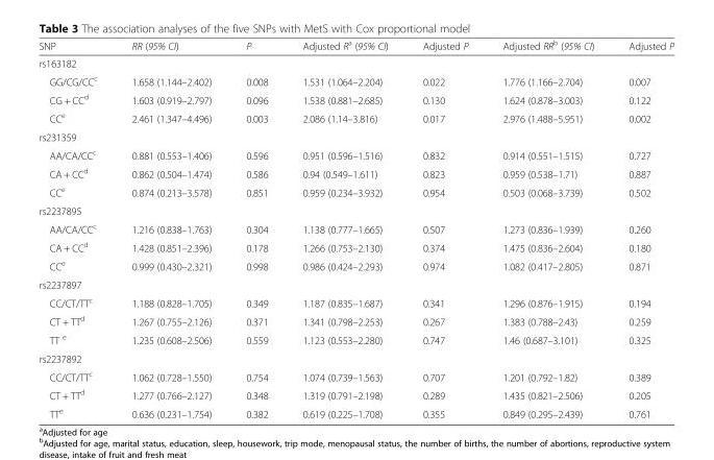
<table><thead><tr><td>SNP</td><td>RR (95% CI)</td><td>P</td><td>Adjusted R<sup>a</sup> (95% CI)</td><td>Adjusted P</td><td>Adjusted RR<sup>b</sup> (95% CI)</td><td>Adjusted P</td></tr></thead><tbody><tr><td colspan="7">rs163182</td></tr><tr><td>GG/CG/CC<sup>c</sup></td><td>1.658 (1.144–2.402)</td><td>0.008</td><td>1.531 (1.064–2.204)</td><td>0.022</td><td>1.776 (1.166–2.704)</td><td>0.007</td></tr><tr><td>CG + CC<sup>d</sup></td><td>1.603 (0.919–2.797)</td><td>0.096</td><td>1.538 (0.881–2.685)</td><td>0.130</td><td>1.624 (0.878–3.003)</td><td>0.122</td></tr><tr><td>CC<sup>e</sup></td><td>2.461 (1.347–4.496)</td><td>0.003</td><td>2.086 (1.14–3.816)</td><td>0.017</td><td>2.976 (1.488–5.951)</td><td>0.002</td></tr><tr><td colspan="7">rs231359</td></tr><tr><td>AA/CA/CC<sup>c</sup></td><td>0.881 (0.553–1.406)</td><td>0.596</td><td>0.951 (0.596–1.516)</td><td>0.832</td><td>0.914 (0.551–1.515)</td><td>0.727</td></tr><tr><td>CA + CC<sup>d</sup></td><td>0.862 (0.504–1.474)</td><td>0.586</td><td>0.94 (0.549–1.611)</td><td>0.823</td><td>0.959 (0.538–1.71)</td><td>0.887</td></tr><tr><td>CC<sup>e</sup></td><td>0.874 (0.213–3.578)</td><td>0.851</td><td>0.959 (0.234–3.932)</td><td>0.954</td><td>0.503 (0.068–3.739)</td><td>0.502</td></tr><tr><td colspan="7">rs2237895</td></tr><tr><td>AA/CA/CC<sup>c</sup></td><td>1.216 (0.838–1.763)</td><td>0.304</td><td>1.138 (0.777–1.665)</td><td>0.507</td><td>1.273 (0.836–1.939)</td><td>0.260</td></tr><tr><td>CA + CC<sup>d</sup></td><td>1.428 (0.851–2.396)</td><td>0.178</td><td>1.266 (0.753–2.130)</td><td>0.374</td><td>1.475 (0.836–2.604)</td><td>0.180</td></tr><tr><td>CC<sup>e</sup></td><td>0.999 (0.430–2.321)</td><td>0.998</td><td>0.986 (0.424–2.293)</td><td>0.974</td><td>1.082 (0.417–2.805)</td><td>0.871</td></tr><tr><td colspan="7">rs2237897</td></tr><tr><td>CC/CT/TT<sup>c</sup></td><td>1.188 (0.828–1.705)</td><td>0.349</td><td>1.187 (0.835–1.687)</td><td>0.341</td><td>1.296 (0.876–1.915)</td><td>0.194</td></tr><tr><td>CT + TT<sup>d</sup></td><td>1.267 (0.755–2.126)</td><td>0.371</td><td>1.341 (0.798–2.253)</td><td>0.267</td><td>1.383 (0.788–2.43)</td><td>0.259</td></tr><tr><td>TT <sup>e</sup></td><td>1.235 (0.608–2.506)</td><td>0.559</td><td>1.123 (0.553–2.280)</td><td>0.747</td><td>1.46 (0.687–3.101)</td><td>0.325</td></tr><tr><td colspan="7">rs2237892</td></tr><tr><td>CC/CT/TT<sup>c</sup></td><td>1.062 (0.728–1.550)</td><td>0.754</td><td>1.074 (0.739–1.563)</td><td>0.707</td><td>1.201 (0.792–1.82)</td><td>0.389</td></tr><tr><td>CT + TT<sup>d</sup></td><td>1.277 (0.766–2.127)</td><td>0.348</td><td>1.319 (0.791–2.198)</td><td>0.289</td><td>1.435 (0.821–2.506)</td><td>0.205</td></tr><tr><td>TT<sup>e</sup></td><td>0.636 (0.231–1.754)</td><td>0.382</td><td>0.619 (0.225–1.708)</td><td>0.355</td><td>0.849 (0.295–2.439)</td><td>0.761</td></tr></tbody></table>